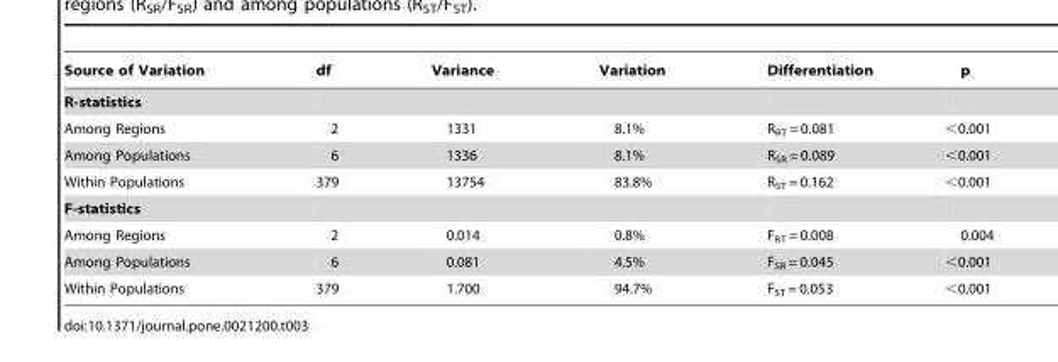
<table><thead><tr><td>Source of Variation</td><td>df</td><td>Variance</td><td>Variation</td><td>Differentiation</td><td>p</td></tr></thead><tbody><tr><td colspan="6">R-statistics</td></tr><tr><td>Among Regions</td><td>2</td><td>1331</td><td>8.1%</td><td>R<sub>RT</sub> = 0.081</td><td>&lt;0.001</td></tr><tr><td>Among Populations</td><td>6</td><td>1336</td><td>8.1%</td><td>R<sub>SR</sub> = 0.089</td><td>&lt;0.001</td></tr><tr><td>Within Populations</td><td>379</td><td>13754</td><td>83.8%</td><td>R<sub>ST</sub> = 0.162</td><td>&lt;0.001</td></tr><tr><td colspan="6">F-statistics</td></tr><tr><td>Among Regions</td><td>2</td><td>0.014</td><td>0.8%</td><td>F<sub>RT</sub> = 0.008</td><td>0.004</td></tr><tr><td>Among Populations</td><td>6</td><td>0.081</td><td>4.5%</td><td>F<sub>SR</sub> = 0.045</td><td>&lt;0.001</td></tr><tr><td>Within Populations</td><td>379</td><td>1.700</td><td>94.7%</td><td>F<sub>ST</sub> = 0.053</td><td>&lt;0.001</td></tr></tbody></table>